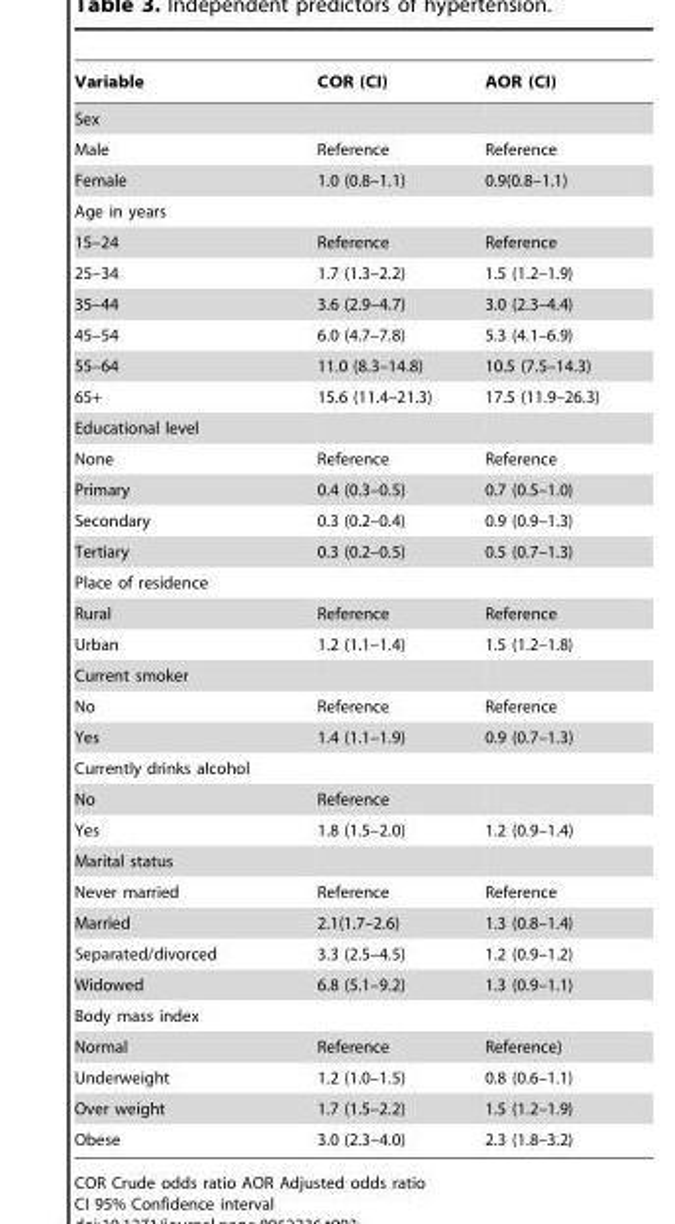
<table><thead><tr><td>Variable</td><td>COR (CI)</td><td>AOR (CI)</td></tr></thead><tbody><tr><td colspan="3">Sex</td></tr><tr><td>Male</td><td>Reference</td><td>Reference</td></tr><tr><td>Female</td><td>1.0 (0.8–1.1)</td><td>0.9(0.8–1.1)</td></tr><tr><td colspan="3">Age in years</td></tr><tr><td>15–24</td><td>Reference</td><td>Reference</td></tr><tr><td>25–34</td><td>1.7 (1.3–2.2)</td><td>1.5 (1.2–1.9)</td></tr><tr><td>35–44</td><td>3.6 (2.9–4.7)</td><td>3.0 (2.3–4.4)</td></tr><tr><td>45–54</td><td>6.0 (4.7–7.8)</td><td>5.3 (4.1–6.9)</td></tr><tr><td>55–64</td><td>11.0 (8.3–14.8)</td><td>10.5 (7.5–14.3)</td></tr><tr><td>65+</td><td>15.6 (11.4–21.3)</td><td>17.5 (11.9–26.3)</td></tr><tr><td colspan="3">Educational level</td></tr><tr><td>None</td><td>Reference</td><td>Reference</td></tr><tr><td>Primary</td><td>0.4 (0.3–0.5)</td><td>0.7 (0.5–1.0)</td></tr><tr><td>Secondary</td><td>0.3 (0.2–0.4)</td><td>0.9 (0.9–1.3)</td></tr><tr><td>Tertiary</td><td>0.3 (0.2–0.5)</td><td>0.5 (0.7–1.3)</td></tr><tr><td colspan="3">Place of residence</td></tr><tr><td>Rural</td><td>Reference</td><td>Reference</td></tr><tr><td>Urban</td><td>1.2 (1.1–1.4)</td><td>1.5 (1.2–1.8)</td></tr><tr><td colspan="3">Current smoker</td></tr><tr><td>No</td><td>Reference</td><td>Reference</td></tr><tr><td>Yes</td><td>1.4 (1.1–1.9)</td><td>0.9 (0.7–1.3)</td></tr><tr><td colspan="3">Currently drinks alcohol</td></tr><tr><td>No</td><td>Reference</td><td></td></tr><tr><td>Yes</td><td>1.8 (1.5–2.0)</td><td>1.2 (0.9–1.4)</td></tr><tr><td colspan="3">Marital status</td></tr><tr><td>Never married</td><td>Reference</td><td>Reference</td></tr><tr><td>Married</td><td>2.1(1.7–2.6)</td><td>1.3 (0.8–1.4)</td></tr><tr><td>Separated/divorced</td><td>3.3 (2.5–4.5)</td><td>1.2 (0.9–1.2)</td></tr><tr><td>Widowed</td><td>6.8 (5.1–9.2)</td><td>1.3 (0.9–1.1)</td></tr><tr><td colspan="3">Body mass index</td></tr><tr><td>Normal</td><td>Reference</td><td>Reference)</td></tr><tr><td>Underweight</td><td>1.2 (1.0–1.5)</td><td>0.8 (0.6–1.1)</td></tr><tr><td>Over weight</td><td>1.7 (1.5–2.2)</td><td>1.5 (1.2–1.9)</td></tr><tr><td>Obese</td><td>3.0 (2.3–4.0)</td><td>2.3 (1.8–3.2)</td></tr></tbody></table>